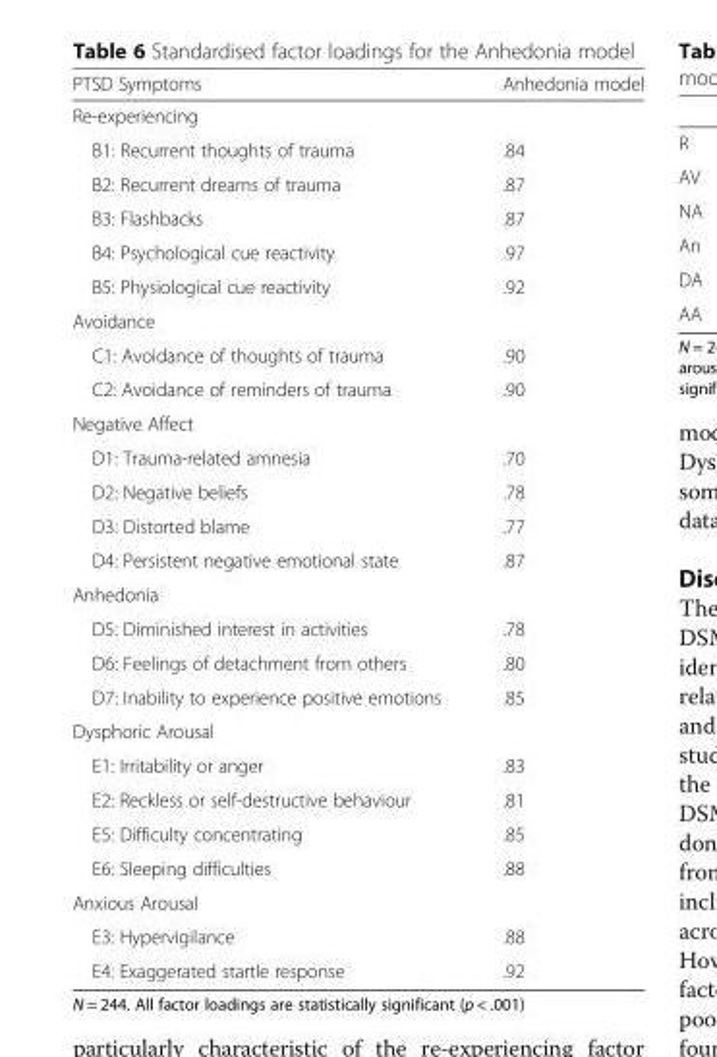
<table><thead><tr><td>PTSD Symptoms</td><td>Anhedonia model</td></tr></thead><tbody><tr><td colspan="2">Re-experiencing</td></tr><tr><td>B1: Recurrent thoughts of trauma</td><td>.84</td></tr><tr><td>B2: Recurrent dreams of trauma</td><td>.87</td></tr><tr><td>B3: Flashbacks</td><td>.87</td></tr><tr><td>B4: Psychological cue reactivity</td><td>.97</td></tr><tr><td>B5: Physiological cue reactivity</td><td>.92</td></tr><tr><td colspan="2">Avoidance</td></tr><tr><td>C1: Avoidance of thoughts of trauma</td><td>.90</td></tr><tr><td>C2: Avoidance of reminders of trauma</td><td>.90</td></tr><tr><td colspan="2">Negative Affect</td></tr><tr><td>D1: Trauma-related amnesia</td><td>.70</td></tr><tr><td>D2: Negative beliefs</td><td>.78</td></tr><tr><td>D3: Distorted blame</td><td>.77</td></tr><tr><td>D4: Persistent negative emotional state</td><td>.87</td></tr><tr><td colspan="2">Anhedonia</td></tr><tr><td>D5: Diminished interest in activities</td><td>.78</td></tr><tr><td>D6: Feelings of detachment from others</td><td>.80</td></tr><tr><td>D7: Inability to experience positive emotions</td><td>.85</td></tr><tr><td colspan="2">Dysphoric Arousal</td></tr><tr><td>E1: Irritability or anger</td><td>.83</td></tr><tr><td>E2: Reckless or self-destructive behaviour</td><td>.81</td></tr><tr><td>E5: Difficulty concentrating</td><td>.85</td></tr><tr><td>E6: Sleeping difficulties</td><td>.88</td></tr><tr><td colspan="2">Anxious Arousal</td></tr><tr><td>E3: Hypervigilance</td><td>.88</td></tr><tr><td>E4: Exaggerated startle response</td><td>.92</td></tr></tbody></table>